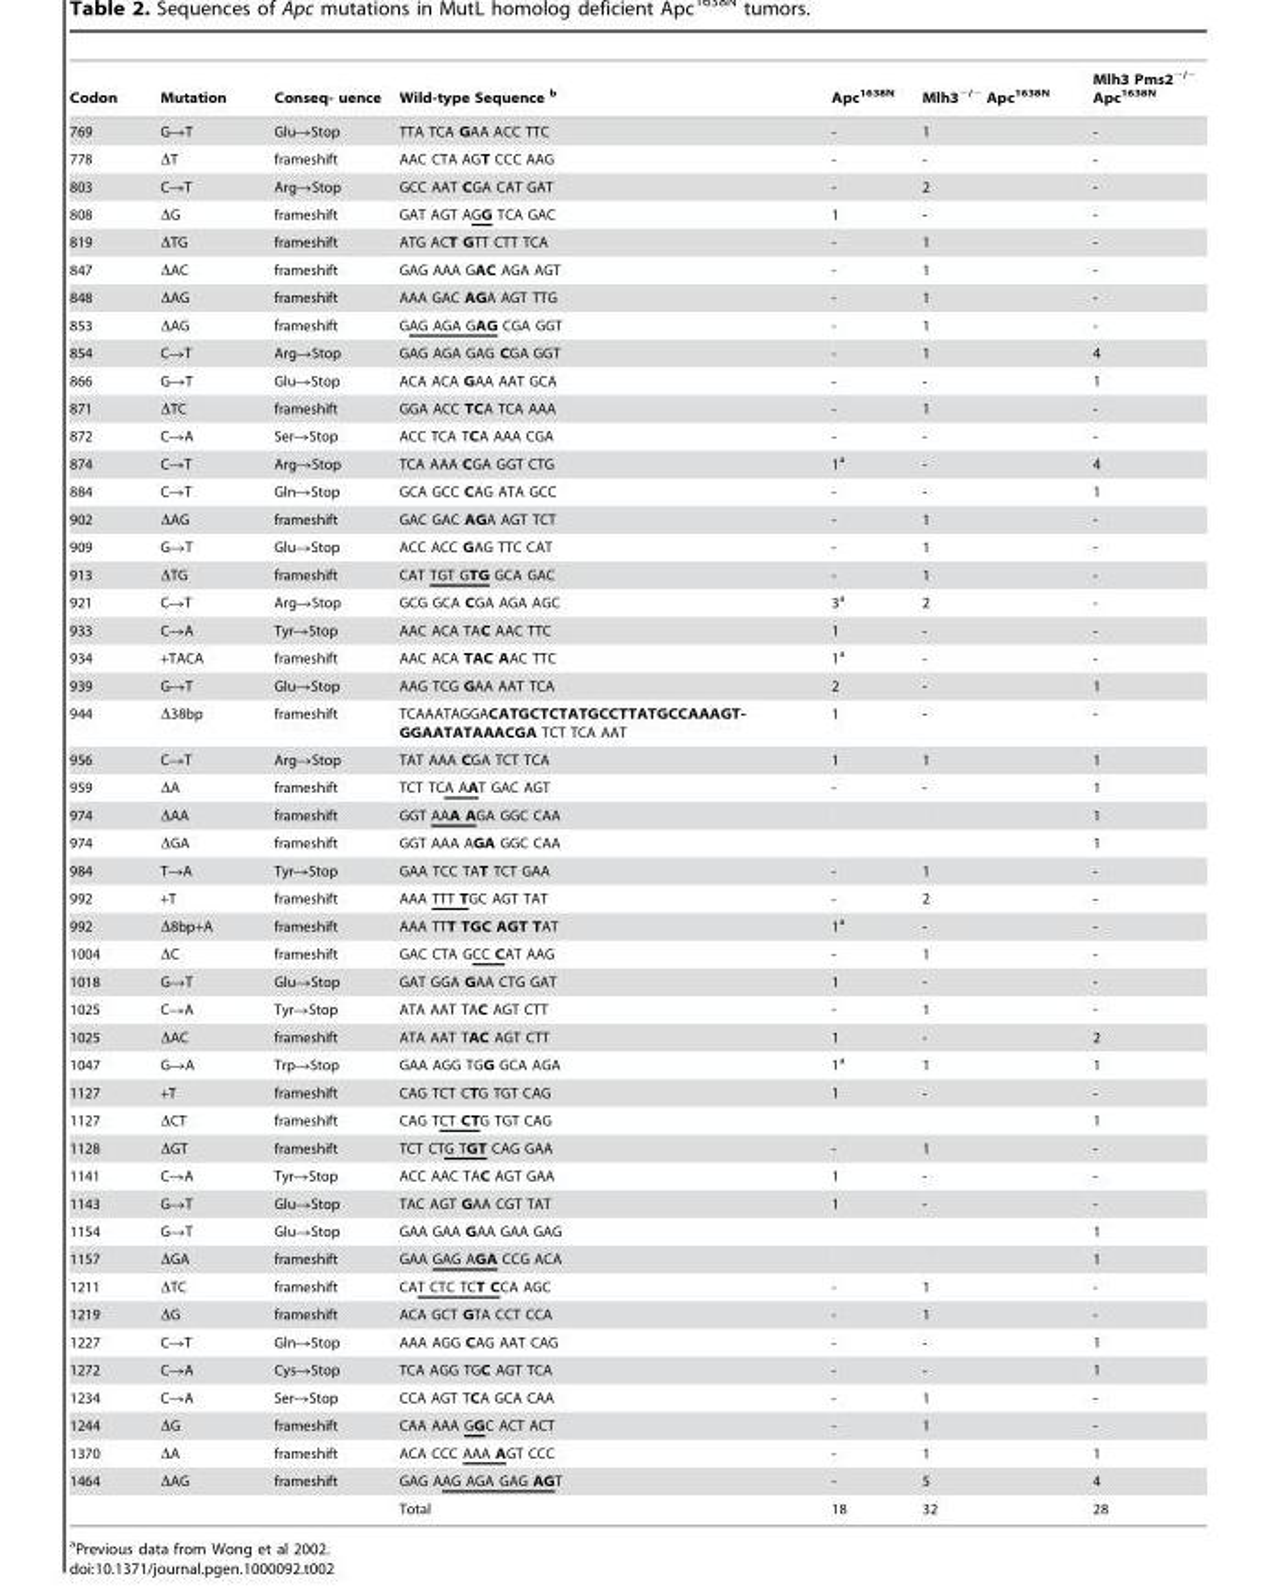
<table><thead><tr><td>Codon</td><td>Mutation</td><td>Conseq- uence</td><td>Wild-type Sequence <sup>b</sup></td><td>Apc<sup>1638N</sup></td><td>Mlh3<sup>−/−</sup> Apc<sup>1638N</sup></td><td>Mlh3 Pms2<sup>−/−</sup> Apc<sup>1638N</sup></td></tr></thead><tbody><tr><td>769</td><td>G→T</td><td>Glu→Stop</td><td>TTA TCA GAA ACC TTC</td><td>-</td><td>1</td><td>-</td></tr><tr><td>778</td><td>ΔT</td><td>frameshift</td><td>AAC CTA AGT CCC AAG</td><td>-</td><td>-</td><td>-</td></tr><tr><td>803</td><td>C→T</td><td>Arg→Stop</td><td>GCC AAT CGA CAT GAT</td><td>-</td><td>2</td><td>-</td></tr><tr><td>808</td><td>ΔG</td><td>frameshift</td><td>GAT AGT AGG TCA GAC</td><td>1</td><td>-</td><td>-</td></tr><tr><td>819</td><td>ΔTG</td><td>frameshift</td><td>ATG ACT GTT CTT TCA</td><td>-</td><td>1</td><td>-</td></tr><tr><td>847</td><td>ΔAC</td><td>frameshift</td><td>GAG AAA GAC AGA AGT</td><td>-</td><td>1</td><td>-</td></tr><tr><td>848</td><td>ΔAG</td><td>frameshift</td><td>AAA GAC AGA AGT TTG</td><td>-</td><td>1</td><td>-</td></tr><tr><td>853</td><td>ΔAG</td><td>frameshift</td><td>GAG AGA GAG CGA GGT</td><td>-</td><td>1</td><td>-</td></tr><tr><td>854</td><td>C→T</td><td>Arg→Stop</td><td>GAG AGA GAG CGA GGT</td><td>-</td><td>1</td><td>4</td></tr><tr><td>866</td><td>G→T</td><td>Glu→Stop</td><td>ACA ACA GAA AAT GCA</td><td>-</td><td>-</td><td>1</td></tr><tr><td>871</td><td>ΔTC</td><td>frameshift</td><td>GGA ACC TCA TCA AAA</td><td>-</td><td>1</td><td>-</td></tr><tr><td>872</td><td>C→A</td><td>Ser→Stop</td><td>ACC TCA TCA AAA CGA</td><td>-</td><td>-</td><td>-</td></tr><tr><td>874</td><td>C→T</td><td>Arg→Stop</td><td>TCA AAA CGA GGT CTG</td><td>1<sup>a</sup></td><td>-</td><td>4</td></tr><tr><td>884</td><td>C→T</td><td>Gln→Stop</td><td>GCA GCC CAG ATA GCC</td><td>-</td><td>-</td><td>1</td></tr><tr><td>902</td><td>ΔAG</td><td>frameshift</td><td>GAC GAC AGA AGT TCT</td><td>-</td><td>1</td><td>-</td></tr><tr><td>909</td><td>G→T</td><td>Glu→Stop</td><td>ACC ACC GAG TTC CAT</td><td>-</td><td>1</td><td>-</td></tr><tr><td>913</td><td>ΔTG</td><td>frameshift</td><td>CAT TGT GTG GCA GAC</td><td>-</td><td>1</td><td>-</td></tr><tr><td>921</td><td>C→T</td><td>Arg→Stop</td><td>GCG GCA CGA AGA AGC</td><td>3<sup>a</sup></td><td>2</td><td>-</td></tr><tr><td>933</td><td>C→A</td><td>Tyr→Stop</td><td>AAC ACA TAC AAC TTC</td><td>1</td><td>-</td><td>-</td></tr><tr><td>934</td><td>+TACA</td><td>frameshift</td><td>AAC ACA TAC AAC TTC</td><td>1<sup>a</sup></td><td>-</td><td>-</td></tr><tr><td>939</td><td>G→T</td><td>Glu→Stop</td><td>AAG TCG GAA AAT TCA</td><td>2</td><td>-</td><td>1</td></tr><tr><td>944</td><td>Δ38bp</td><td>frameshift</td><td>TCAAATAGGACATGCTCTATGCCTTATGCCAAAGT- GGAATATAAACGA TCT TCA AAT</td><td>1</td><td>-</td><td>-</td></tr><tr><td>956</td><td>C→T</td><td>Arg→Stop</td><td>TAT AAA CGA TCT TCA</td><td>1</td><td>1</td><td>1</td></tr><tr><td>959</td><td>ΔA</td><td>frameshift</td><td>TCT TCA AAT GAC AGT</td><td>-</td><td>-</td><td>1</td></tr><tr><td>974</td><td>ΔAA</td><td>frameshift</td><td>GGT AAA AGA GGC CAA</td><td></td><td></td><td>1</td></tr><tr><td>974</td><td>ΔGA</td><td>frameshift</td><td>GGT AAA AGA GGC CAA</td><td></td><td></td><td>1</td></tr><tr><td>984</td><td>T→A</td><td>Tyr→Stop</td><td>GAA TCC TAT TCT GAA</td><td>-</td><td>1</td><td>-</td></tr><tr><td>992</td><td>+T</td><td>frameshift</td><td>AAA TTT TGC AGT TAT</td><td>-</td><td>2</td><td>-</td></tr><tr><td>992</td><td>Δ8bp+A</td><td>frameshift</td><td>AAA TTT TGC AGT TAT</td><td>1<sup>a</sup></td><td>-</td><td>-</td></tr><tr><td>1004</td><td>ΔC</td><td>frameshift</td><td>GAC CTA GCC CAT AAG</td><td>-</td><td>1</td><td>-</td></tr><tr><td>1018</td><td>G→T</td><td>Glu→Stop</td><td>GAT GGA GAA CTG GAT</td><td>1</td><td>-</td><td>-</td></tr><tr><td>1025</td><td>C→A</td><td>Tyr→Stop</td><td>ATA AAT TAC AGT CTT</td><td>-</td><td>1</td><td>-</td></tr><tr><td>1025</td><td>ΔAC</td><td>frameshift</td><td>ATA AAT TAC AGT CTT</td><td>1</td><td>-</td><td>2</td></tr><tr><td>1047</td><td>G→A</td><td>Trp→Stop</td><td>GAA AGG TGG GCA AGA</td><td>1<sup>a</sup></td><td>1</td><td>1</td></tr><tr><td>1127</td><td>+T</td><td>frameshift</td><td>CAG TCT CTG TGT CAG</td><td>1</td><td>-</td><td>-</td></tr><tr><td>1127</td><td>ΔCT</td><td>frameshift</td><td>CAG TCT CTG TGT CAG</td><td></td><td></td><td>1</td></tr><tr><td>1128</td><td>ΔGT</td><td>frameshift</td><td>TCT CTG TGT CAG GAA</td><td>-</td><td>1</td><td>-</td></tr><tr><td>1141</td><td>C→A</td><td>Tyr→Stop</td><td>ACC AAC TAC AGT GAA</td><td>1</td><td>-</td><td>-</td></tr><tr><td>1143</td><td>G→T</td><td>Glu→Stop</td><td>TAC AGT GAA CGT TAT</td><td>1</td><td>-</td><td>-</td></tr><tr><td>1154</td><td>G→T</td><td>Glu→Stop</td><td>GAA GAA GAA GAA GAG</td><td></td><td></td><td>1</td></tr><tr><td>1157</td><td>ΔGA</td><td>frameshift</td><td>GAA GAG AGA CCG ACA</td><td></td><td></td><td>1</td></tr><tr><td>1211</td><td>ΔTC</td><td>frameshift</td><td>CAT CTC TCT CCA AGC</td><td>-</td><td>1</td><td>-</td></tr><tr><td>1219</td><td>ΔG</td><td>frameshift</td><td>ACA GCT GTA CCT CCA</td><td>-</td><td>1</td><td>-</td></tr><tr><td>1227</td><td>C→T</td><td>Gln→Stop</td><td>AAA AGG CAG AAT CAG</td><td>-</td><td>-</td><td>1</td></tr><tr><td>1272</td><td>C→A</td><td>Cys→Stop</td><td>TCA AGG TGC AGT TCA</td><td>-</td><td>-</td><td>1</td></tr><tr><td>1234</td><td>C→A</td><td>Ser→Stop</td><td>CCA AGT TCA GCA CAA</td><td>-</td><td>1</td><td>-</td></tr><tr><td>1244</td><td>ΔG</td><td>frameshift</td><td>CAA AAA GGC ACT ACT</td><td>-</td><td>1</td><td>-</td></tr><tr><td>1370</td><td>ΔA</td><td>frameshift</td><td>ACA CCC AAA AGT CCC</td><td>-</td><td>1</td><td>1</td></tr><tr><td rowspan="2">1464</td><td>ΔAG</td><td>frameshift</td><td>GAG AAG AGA GAG AGT</td><td>-</td><td>5</td><td>4</td></tr><tr><td></td><td></td><td>Total</td><td>18</td><td>32</td><td>28</td></tr></tbody></table>